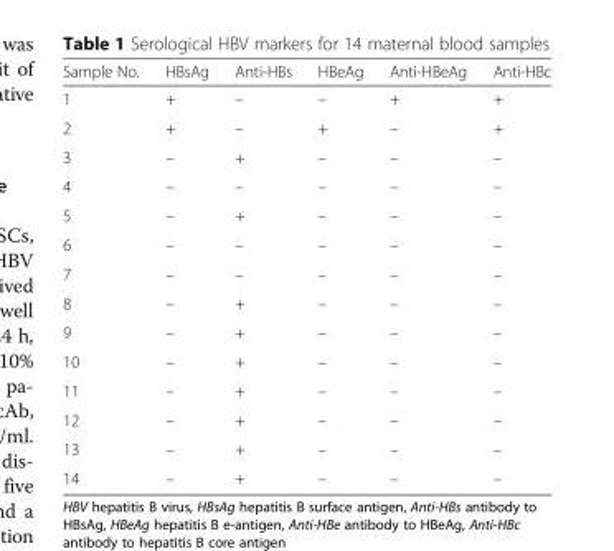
<table><thead><tr><td>Sample No.</td><td>HBsAg</td><td>Anti-HBs</td><td>HBeAg</td><td>Anti-HBeAg</td><td>Anti-HBc</td></tr></thead><tbody><tr><td>1</td><td>+</td><td>–</td><td>–</td><td>+</td><td>+</td></tr><tr><td>2</td><td>+</td><td>–</td><td>+</td><td>–</td><td>+</td></tr><tr><td>3</td><td>–</td><td>+</td><td>–</td><td>–</td><td>–</td></tr><tr><td>4</td><td>–</td><td>–</td><td>–</td><td>–</td><td>–</td></tr><tr><td>5</td><td>–</td><td>+</td><td>–</td><td>–</td><td>–</td></tr><tr><td>6</td><td>–</td><td>–</td><td>–</td><td>–</td><td>–</td></tr><tr><td>7</td><td>–</td><td>–</td><td>–</td><td>–</td><td>–</td></tr><tr><td>8</td><td>–</td><td>+</td><td>–</td><td>–</td><td>–</td></tr><tr><td>9</td><td>–</td><td>+</td><td>–</td><td>–</td><td>–</td></tr><tr><td>10</td><td>–</td><td>+</td><td>–</td><td>–</td><td>–</td></tr><tr><td>11</td><td>–</td><td>+</td><td>–</td><td>–</td><td>–</td></tr><tr><td>12</td><td>–</td><td>+</td><td>–</td><td>–</td><td>–</td></tr><tr><td>13</td><td>–</td><td>+</td><td>–</td><td>–</td><td>–</td></tr><tr><td>14</td><td>–</td><td>+</td><td>–</td><td>–</td><td>–</td></tr></tbody></table>